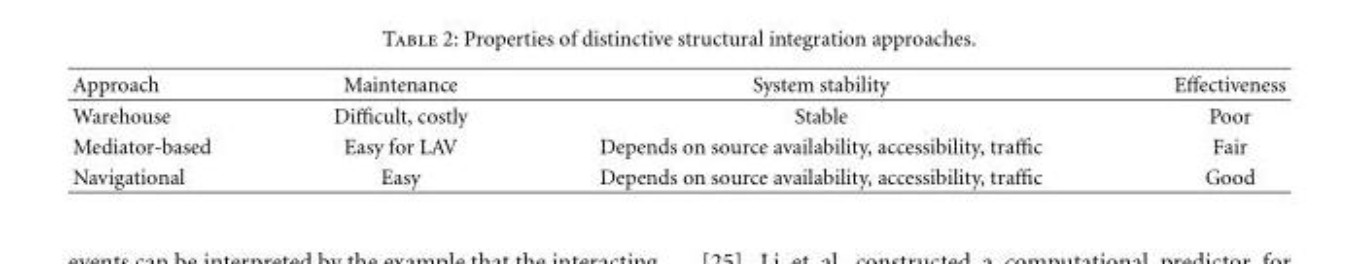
<table><thead><tr><td>Approach</td><td>Maintenance</td><td>System stability</td><td>Effectiveness</td></tr></thead><tbody><tr><td>Warehouse</td><td>Difficult, costly</td><td>Stable</td><td>Poor</td></tr><tr><td>Mediator-based</td><td>Easy for LAV</td><td>Depends on source availability, accessibility, traffic</td><td>Fair</td></tr><tr><td>Navigational</td><td>Easy</td><td>Depends on source availability, accessibility, traffic</td><td>Good</td></tr></tbody></table>